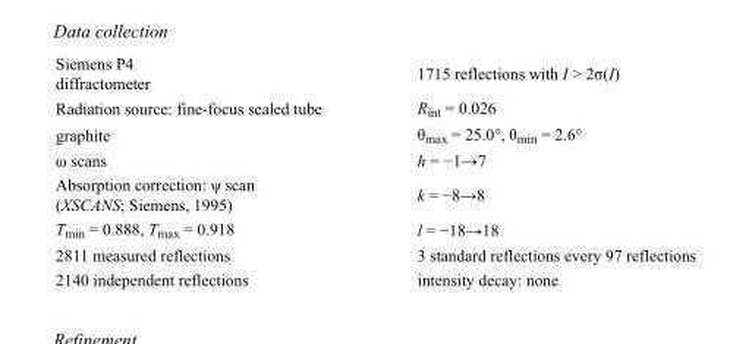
<table><tbody><tr><td>Siemens P4 diffractometer</td><td>1715 reflections with I &gt; 2σ(I)</td></tr><tr><td>Radiation source: fine-focus sealed tube</td><td>R<sub>int</sub> = 0.026</td></tr><tr><td>graphite</td><td>θ<sub>max</sub> = 25.0°, θ<sub>min</sub> = 2.6°</td></tr><tr><td>ω scans</td><td>h = −1→7</td></tr><tr><td>Absorption correction: ψ scan (XSCANS; Siemens, 1995)</td><td>k = −8→8</td></tr><tr><td>T<sub>min</sub> = 0.888, T<sub>max</sub> = 0.918</td><td>l = −18→18</td></tr><tr><td>2811 measured reflections</td><td>3 standard reflections every 97 reflections</td></tr><tr><td>2140 independent reflections</td><td>intensity decay: none</td></tr></tbody></table>